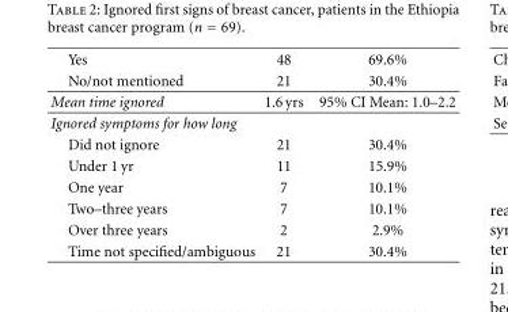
<table><tbody><tr><td>Yes</td><td>48</td><td>69.6%</td></tr><tr><td>No/not mentioned</td><td>21</td><td>30.4%</td></tr><tr><td>Mean time ignored</td><td>1.6 yrs</td><td>95% CI Mean: 1.0–2.2</td></tr><tr><td colspan="3">Ignored symptoms for how long</td></tr><tr><td>Did not ignore</td><td>21</td><td>30.4%</td></tr><tr><td>Under 1 yr</td><td>11</td><td>15.9%</td></tr><tr><td>One year</td><td>7</td><td>10.1%</td></tr><tr><td>Two–three years</td><td>7</td><td>10.1%</td></tr><tr><td>Over three years</td><td>2</td><td>2.9%</td></tr><tr><td>Time not specified/ambiguous</td><td>21</td><td>30.4%</td></tr></tbody></table>